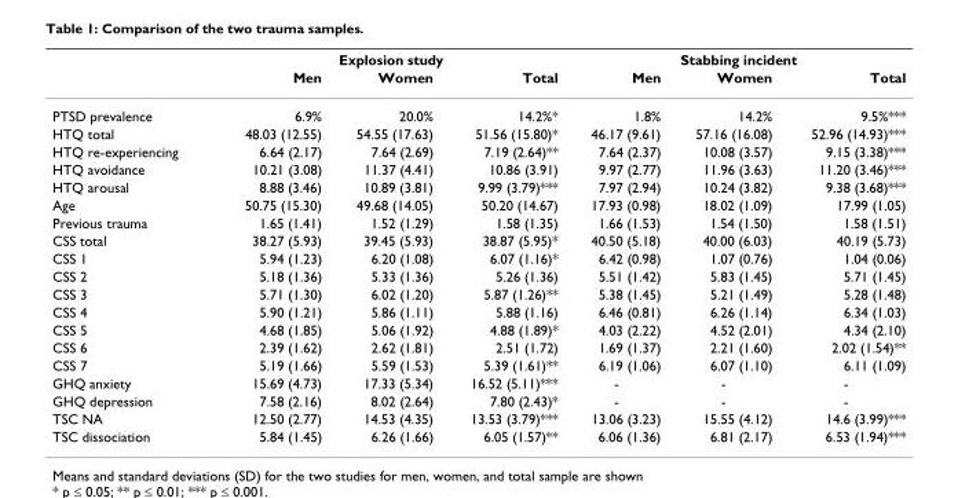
<table><thead><tr><td rowspan="2"></td><td colspan="3">Explosion study</td><td colspan="3">Stabbing incident</td></tr><tr><td>Men</td><td>Women</td><td>Total</td><td>Men</td><td>Women</td><td>Total</td></tr></thead><tbody><tr><td>PTSD prevalence</td><td>6.9%</td><td>20.0%</td><td>14.2%*</td><td>1.8%</td><td>14.2%</td><td>9.5%***</td></tr><tr><td>HTQ total</td><td>48.03 (12.55)</td><td>54.55 (17.63)</td><td>51.56 (15.80)*</td><td>46.17 (9.61)</td><td>57.16 (16.08)</td><td>52.96 (14.93)***</td></tr><tr><td>HTQ re-experiencing</td><td>6.64 (2.17)</td><td>7.64 (2.69)</td><td>7.19 (2.64)**</td><td>7.64 (2.37)</td><td>10.08 (3.57)</td><td>9.15 (3.38)***</td></tr><tr><td>HTQ avoidance</td><td>10.21 (3.08)</td><td>11.37 (4.41)</td><td>10.86 (3.91)</td><td>9.97 (2.77)</td><td>11.96 (3.63)</td><td>11.20 (3.46)***</td></tr><tr><td>HTQ arousal</td><td>8.88 (3.46)</td><td>10.89 (3.81)</td><td>9.99 (3.79)***</td><td>7.97 (2.94)</td><td>10.24 (3.82)</td><td>9.38 (3.68)***</td></tr><tr><td>Age</td><td>50.75 (15.30)</td><td>49.68 (14.05)</td><td>50.20 (14.67)</td><td>17.93 (0.98)</td><td>18.02 (1.09)</td><td>17.99 (1.05)</td></tr><tr><td>Previous trauma</td><td>1.65 (1.41)</td><td>1.52 (1.29)</td><td>1.58 (1.35)</td><td>1.66 (1.53)</td><td>1.54 (1.50)</td><td>1.58 (1.51)</td></tr><tr><td>CSS total</td><td>38.27 (5.93)</td><td>39.45 (5.93)</td><td>38.87 (5.95)*</td><td>40.50 (5.18)</td><td>40.00 (6.03)</td><td>40.19 (5.73)</td></tr><tr><td>CSS 1</td><td>5.94 (1.23)</td><td>6.20 (1.08)</td><td>6.07 (1.16)*</td><td>6.42 (0.98)</td><td>1.07 (0.76)</td><td>1.04 (0.06)</td></tr><tr><td>CSS 2</td><td>5.18 (1.36)</td><td>5.33 (1.36)</td><td>5.26 (1.36)</td><td>5.51 (1.42)</td><td>5.83 (1.45)</td><td>5.71 (1.45)</td></tr><tr><td>CSS 3</td><td>5.71 (1.30)</td><td>6.02 (1.20)</td><td>5.87 (1.26)**</td><td>5.38 (1.45)</td><td>5.21 (1.49)</td><td>5.28 (1.48)</td></tr><tr><td>CSS 4</td><td>5.90 (1.21)</td><td>5.86 (1.11)</td><td>5.88 (1.16)</td><td>6.46 (0.81)</td><td>6.26 (1.14)</td><td>6.34 (1.03)</td></tr><tr><td>CSS 5</td><td>4.68 (1.85)</td><td>5.06 (1.92)</td><td>4.88 (1.89)*</td><td>4.03 (2.22)</td><td>4.52 (2.01)</td><td>4.34 (2.10)</td></tr><tr><td>CSS 6</td><td>2.39 (1.62)</td><td>2.62 (1.81)</td><td>2.51 (1.72)</td><td>1.69 (1.37)</td><td>2.21 (1.60)</td><td>2.02 (1.54)**</td></tr><tr><td>CSS 7</td><td>5.19 (1.66)</td><td>5.59 (1.53)</td><td>5.39 (1.61)**</td><td>6.19 (1.06)</td><td>6.07 (1.10)</td><td>6.11 (1.09)</td></tr><tr><td>GHQ anxiety</td><td>15.69 (4.73)</td><td>17.33 (5.34)</td><td>16.52 (5.11)***</td><td>-</td><td>-</td><td>-</td></tr><tr><td>GHQ depression</td><td>7.58 (2.16)</td><td>8.02 (2.64)</td><td>7.80 (2.43)*</td><td>-</td><td>-</td><td>-</td></tr><tr><td>TSC NA</td><td>12.50 (2.77)</td><td>14.53 (4.35)</td><td>13.53 (3.79)***</td><td>13.06 (3.23)</td><td>15.55 (4.12)</td><td>14.6 (3.99)***</td></tr><tr><td>TSC dissociation</td><td>5.84 (1.45)</td><td>6.26 (1.66)</td><td>6.05 (1.57)**</td><td>6.06 (1.36)</td><td>6.81 (2.17)</td><td>6.53 (1.94)***</td></tr></tbody></table>